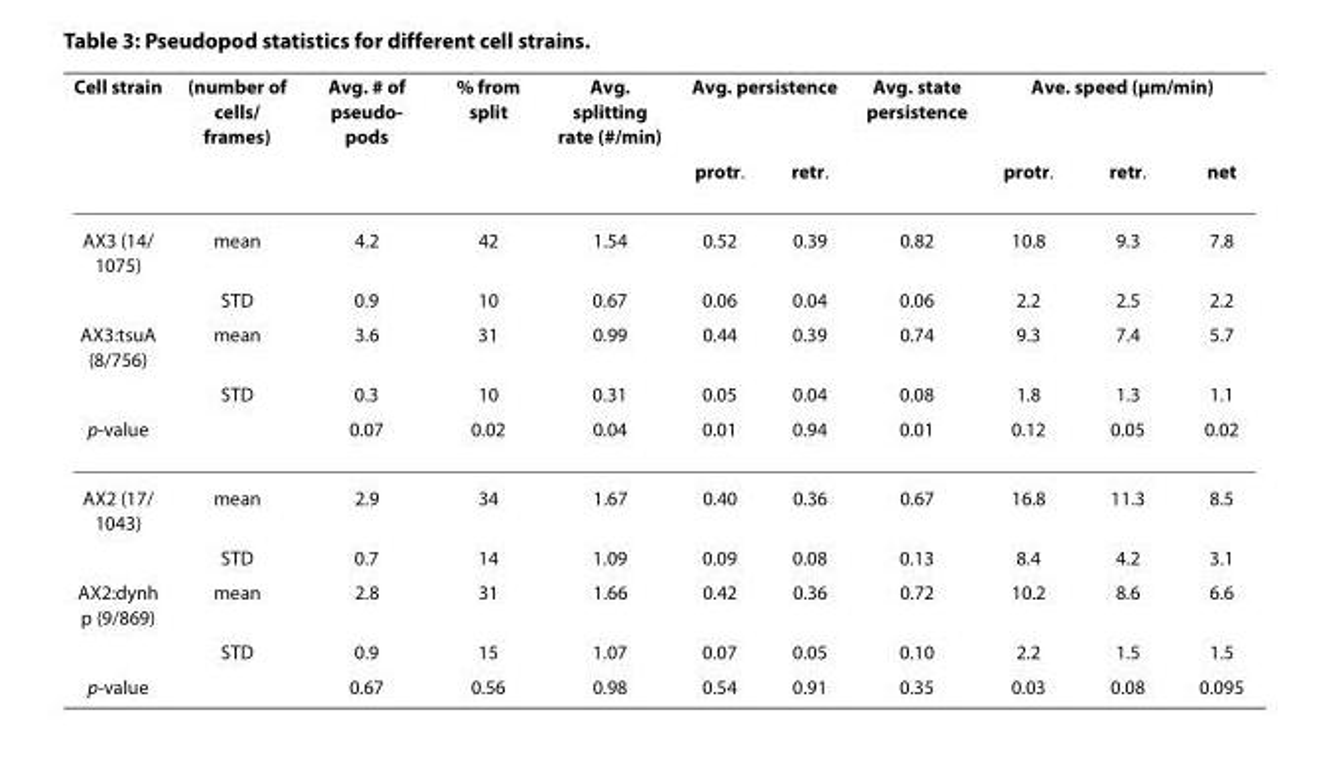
<table><thead><tr><td rowspan="2">Cell strain</td><td rowspan="2">(number of cells/ frames)</td><td rowspan="2">Avg. # of pseudo- pods</td><td rowspan="2">% from split</td><td rowspan="2">Avg. splitting rate (#/min)</td><td colspan="2">Avg. persistence</td><td rowspan="2">Avg. state persistence</td><td colspan="3">Ave. speed (μm/min)</td></tr><tr><td>protr.</td><td>retr.</td><td>protr.</td><td>retr.</td><td>net</td></tr></thead><tbody><tr><td rowspan="2">AX3 (14/ 1075)</td><td>mean</td><td>4.2</td><td>42</td><td>1.54</td><td>0.52</td><td>0.39</td><td>0.82</td><td>10.8</td><td>9.3</td><td>7.8</td></tr><tr><td>STD</td><td>0.9</td><td>10</td><td>0.67</td><td>0.06</td><td>0.04</td><td>0.06</td><td>2.2</td><td>2.5</td><td>2.2</td></tr><tr><td rowspan="2">AX3:tsuA (8/756)</td><td>mean</td><td>3.6</td><td>31</td><td>0.99</td><td>0.44</td><td>0.39</td><td>0.74</td><td>9.3</td><td>7.4</td><td>5.7</td></tr><tr><td>STD</td><td>0.3</td><td>10</td><td>0.31</td><td>0.05</td><td>0.04</td><td>0.08</td><td>1.8</td><td>1.3</td><td>1.1</td></tr><tr><td>p-value</td><td></td><td>0.07</td><td>0.02</td><td>0.04</td><td>0.01</td><td>0.94</td><td>0.01</td><td>0.12</td><td>0.05</td><td>0.02</td></tr><tr><td rowspan="2">AX2 (17/ 1043)</td><td>mean</td><td>2.9</td><td>34</td><td>1.67</td><td>0.40</td><td>0.36</td><td>0.67</td><td>16.8</td><td>11.3</td><td>8.5</td></tr><tr><td>STD</td><td>0.7</td><td>14</td><td>1.09</td><td>0.09</td><td>0.08</td><td>0.13</td><td>8.4</td><td>4.2</td><td>3.1</td></tr><tr><td rowspan="2">AX2:dynh p (9/869)</td><td>mean</td><td>2.8</td><td>31</td><td>1.66</td><td>0.42</td><td>0.36</td><td>0.72</td><td>10.2</td><td>8.6</td><td>6.6</td></tr><tr><td>STD</td><td>0.9</td><td>15</td><td>1.07</td><td>0.07</td><td>0.05</td><td>0.10</td><td>2.2</td><td>1.5</td><td>1.5</td></tr><tr><td>p-value</td><td></td><td>0.67</td><td>0.56</td><td>0.98</td><td>0.54</td><td>0.91</td><td>0.35</td><td>0.03</td><td>0.08</td><td>0.095</td></tr></tbody></table>